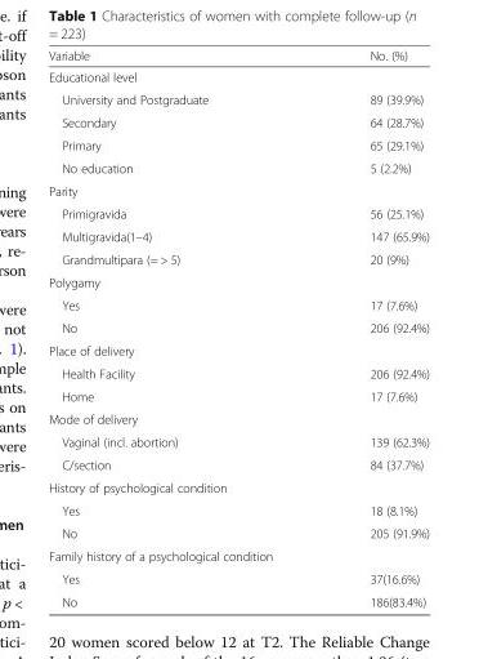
<table><thead><tr><td>Variable</td><td>No. (%)</td></tr></thead><tbody><tr><td colspan="2">Educational level</td></tr><tr><td>University and Postgraduate</td><td>89 (39.9%)</td></tr><tr><td>Secondary</td><td>64 (28.7%)</td></tr><tr><td>Primary</td><td>65 (29.1%)</td></tr><tr><td>No education</td><td>5 (2.2%)</td></tr><tr><td colspan="2">Parity</td></tr><tr><td>Primigravida</td><td>56 (25.1%)</td></tr><tr><td>Multigravida(1–4)</td><td>147 (65.9%)</td></tr><tr><td>Grandmultipara (= &gt; 5)</td><td>20 (9%)</td></tr><tr><td colspan="2">Polygamy</td></tr><tr><td>Yes</td><td>17 (7.6%)</td></tr><tr><td>No</td><td>206 (92.4%)</td></tr><tr><td colspan="2">Place of delivery</td></tr><tr><td>Health Facility</td><td>206 (92.4%)</td></tr><tr><td>Home</td><td>17 (7.6%)</td></tr><tr><td colspan="2">Mode of delivery</td></tr><tr><td>Vaginal (incl. abortion)</td><td>139 (62.3%)</td></tr><tr><td>C/section</td><td>84 (37.7%)</td></tr><tr><td colspan="2">History of psychological condition</td></tr><tr><td>Yes</td><td>18 (8.1%)</td></tr><tr><td>No</td><td>205 (91.9%)</td></tr><tr><td colspan="2">Family history of a psychological condition</td></tr><tr><td>Yes</td><td>37(16.6%)</td></tr><tr><td>No</td><td>186(83.4%)</td></tr></tbody></table>